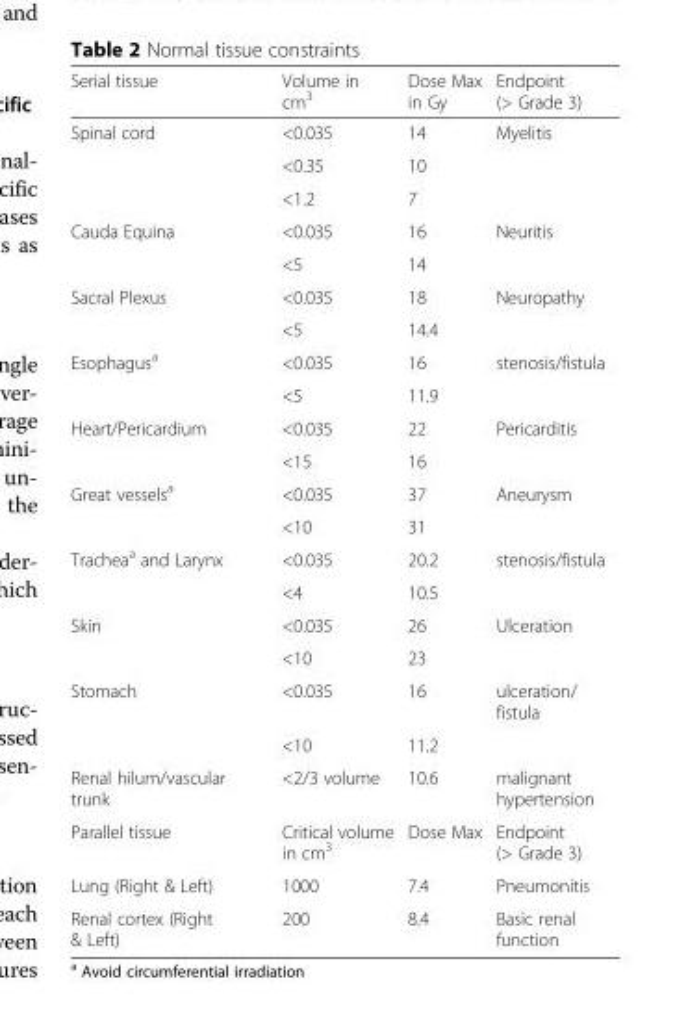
<table><thead><tr><td>Serial tissue</td><td>Volume in cm<sup>3</sup></td><td>Dose Max in Gy</td><td>Endpoint (&gt; Grade 3)</td></tr></thead><tbody><tr><td rowspan="3">Spinal cord</td><td>&lt;0.035</td><td>14</td><td>Myelitis</td></tr><tr><td>&lt;0.35</td><td>10</td><td></td></tr><tr><td>&lt;1.2</td><td>7</td><td></td></tr><tr><td rowspan="2">Cauda Equina</td><td>&lt;0.035</td><td>16</td><td>Neuritis</td></tr><tr><td>&lt;5</td><td>14</td><td></td></tr><tr><td rowspan="2">Sacral Plexus</td><td>&lt;0.035</td><td>18</td><td>Neuropathy</td></tr><tr><td>&lt;5</td><td>14.4</td><td></td></tr><tr><td rowspan="2">Esophagus<sup>a</sup></td><td>&lt;0.035</td><td>16</td><td>stenosis/fistula</td></tr><tr><td>&lt;5</td><td>11.9</td><td></td></tr><tr><td rowspan="2">Heart/Pericardium</td><td>&lt;0.035</td><td>22</td><td>Pericarditis</td></tr><tr><td>&lt;15</td><td>16</td><td></td></tr><tr><td rowspan="2">Great vessels<sup>a</sup></td><td>&lt;0.035</td><td>37</td><td>Aneurysm</td></tr><tr><td>&lt;10</td><td>31</td><td></td></tr><tr><td rowspan="2">Trachea<sup>a</sup> and Larynx</td><td>&lt;0.035</td><td>20.2</td><td>stenosis/fistula</td></tr><tr><td>&lt;4</td><td>10.5</td><td></td></tr><tr><td rowspan="2">Skin</td><td>&lt;0.035</td><td>26</td><td>Ulceration</td></tr><tr><td>&lt;10</td><td>23</td><td></td></tr><tr><td rowspan="2">Stomach</td><td>&lt;0.035</td><td>16</td><td>ulceration/ fistula</td></tr><tr><td>&lt;10</td><td>11.2</td><td></td></tr><tr><td>Renal hilum/vascular trunk</td><td>&lt;2/3 volume</td><td>10.6</td><td>malignant hypertension</td></tr><tr><td>Parallel tissue</td><td>Critical volume in cm<sup>3</sup></td><td>Dose Max</td><td>Endpoint (&gt; Grade 3)</td></tr><tr><td>Lung (Right &amp; Left)</td><td>1000</td><td>7.4</td><td>Pneumonitis</td></tr><tr><td>Renal cortex (Right &amp; Left)</td><td>200</td><td>8.4</td><td>Basic renal function</td></tr></tbody></table>